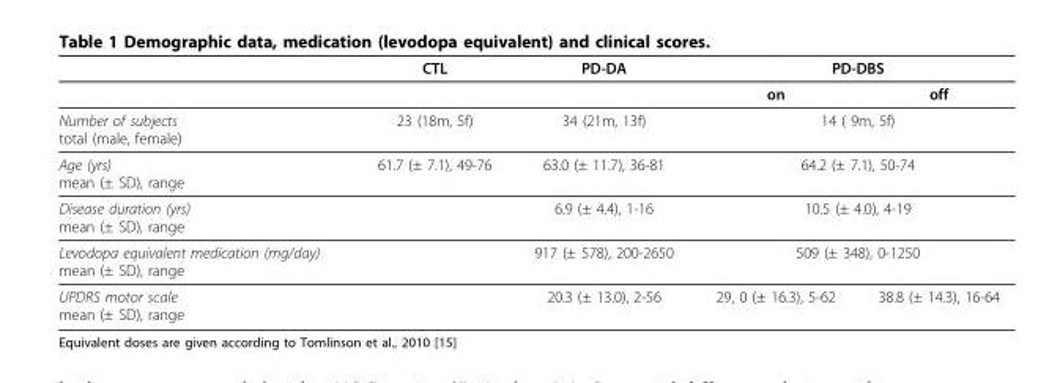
<table><thead><tr><td rowspan="2"></td><td rowspan="2">CTL</td><td rowspan="2">PD-DA</td><td colspan="2">PD-DBS</td></tr><tr><td>on</td><td>off</td></tr></thead><tbody><tr><td>Number of subjects total (male, female)</td><td>23 (18m, 5f)</td><td>34 (21m, 13f)</td><td colspan="2">14 ( 9m, 5f)</td></tr><tr><td>Age (yrs) mean (± SD), range</td><td>61.7 (± 7.1), 49-76</td><td>63.0 (± 11.7), 36-81</td><td colspan="2">64.2 (± 7.1), 50-74</td></tr><tr><td>Disease duration (yrs) mean (± SD), range</td><td></td><td>6.9 (± 4.4), 1-16</td><td colspan="2">10.5 (± 4.0), 4-19</td></tr><tr><td>Levodopa equivalent medication (mg/day) mean (± SD), range</td><td></td><td>917 (± 578), 200-2650</td><td colspan="2">509 (± 348), 0-1250</td></tr><tr><td>UPDRS motor scale mean (± SD), range</td><td></td><td>20.3 (± 13.0), 2-56</td><td>29, 0 (± 16.3), 5-62</td><td>38.8 (± 14.3), 16-64</td></tr></tbody></table>